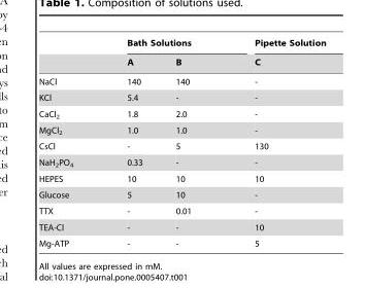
<table><thead><tr><td rowspan="2"></td><td colspan="2">Bath Solutions</td><td rowspan="2">Pipette Solution C</td></tr><tr><td>A</td><td>B</td></tr></thead><tbody><tr><td>NaCl</td><td>140</td><td>140</td><td>-</td></tr><tr><td>KCl</td><td>5.4</td><td>-</td><td>-</td></tr><tr><td>CaCl<sub>2</sub></td><td>1.8</td><td>2.0</td><td>-</td></tr><tr><td>MgCl<sub>2</sub></td><td>1.0</td><td>1.0</td><td>-</td></tr><tr><td>CsCl</td><td>-</td><td>5</td><td>130</td></tr><tr><td>NaH<sub>2</sub>PO<sub>4</sub></td><td>0.33</td><td>-</td><td>-</td></tr><tr><td>HEPES</td><td>10</td><td>10</td><td>10</td></tr><tr><td>Glucose</td><td>5</td><td>10</td><td>-</td></tr><tr><td>TTX</td><td>-</td><td>0.01</td><td>-</td></tr><tr><td>TEA-Cl</td><td>-</td><td>-</td><td>10</td></tr><tr><td>Mg-ATP</td><td>-</td><td>-</td><td>5</td></tr></tbody></table>